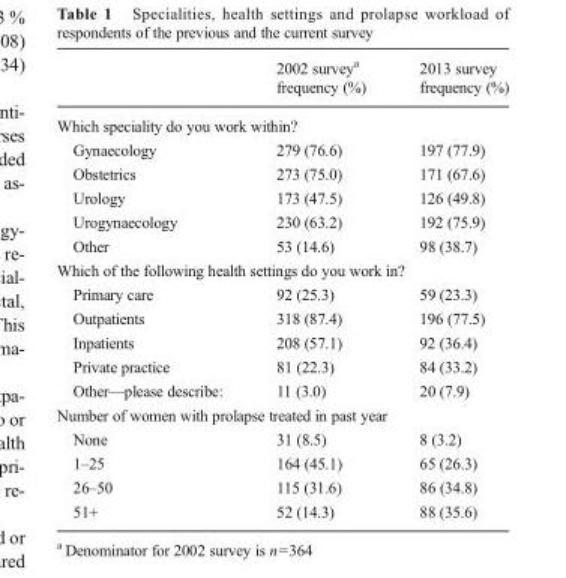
<table><thead><tr><td></td><td>2002 survey<sup>a</sup> frequency (%)</td><td>2013 survey frequency (%)</td></tr></thead><tbody><tr><td colspan="3">Which speciality do you work within?</td></tr><tr><td>Gynaecology</td><td>279 (76.6)</td><td>197 (77.9)</td></tr><tr><td>Obstetrics</td><td>273 (75.0)</td><td>171 (67.6)</td></tr><tr><td>Urology</td><td>173 (47.5)</td><td>126 (49.8)</td></tr><tr><td>Urogynaecology</td><td>230 (63.2)</td><td>192 (75.9)</td></tr><tr><td>Other</td><td>53 (14.6)</td><td>98 (38.7)</td></tr><tr><td colspan="3">Which of the following health settings do you work in?</td></tr><tr><td>Primary care</td><td>92 (25.3)</td><td>59 (23.3)</td></tr><tr><td>Outpatients</td><td>318 (87.4)</td><td>196 (77.5)</td></tr><tr><td>Inpatients</td><td>208 (57.1)</td><td>92 (36.4)</td></tr><tr><td>Private practice</td><td>81 (22.3)</td><td>84 (33.2)</td></tr><tr><td>Other—please describe:</td><td>11 (3.0)</td><td>20 (7.9)</td></tr><tr><td colspan="3">Number of women with prolapse treated in past year</td></tr><tr><td>None</td><td>31 (8.5)</td><td>8 (3.2)</td></tr><tr><td>1–25</td><td>164 (45.1)</td><td>65 (26.3)</td></tr><tr><td>26–50</td><td>115 (31.6)</td><td>86 (34.8)</td></tr><tr><td>51+</td><td>52 (14.3)</td><td>88 (35.6)</td></tr></tbody></table>